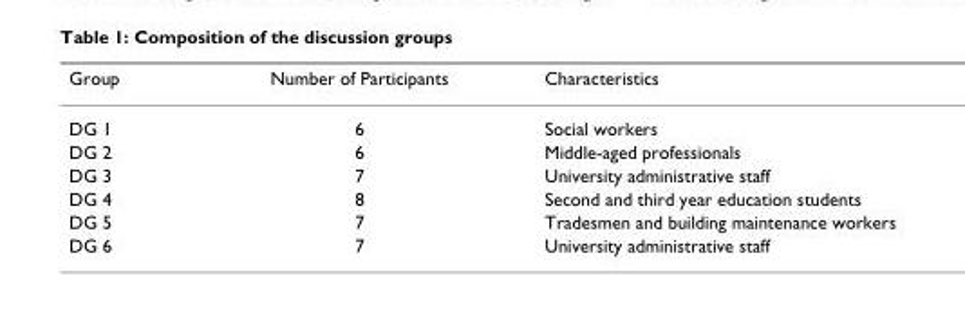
<table><thead><tr><td>Group</td><td>Number of Participants</td><td>Characteristics</td></tr></thead><tbody><tr><td>DG 1</td><td>6</td><td>Social workers</td></tr><tr><td>DG 2</td><td>6</td><td>Middle-aged professionals</td></tr><tr><td>DG 3</td><td>7</td><td>University administrative staff</td></tr><tr><td>DG 4</td><td>8</td><td>Second and third year education students</td></tr><tr><td>DG 5</td><td>7</td><td>Tradesmen and building maintenance workers</td></tr><tr><td>DG 6</td><td>7</td><td>University administrative staff</td></tr></tbody></table>